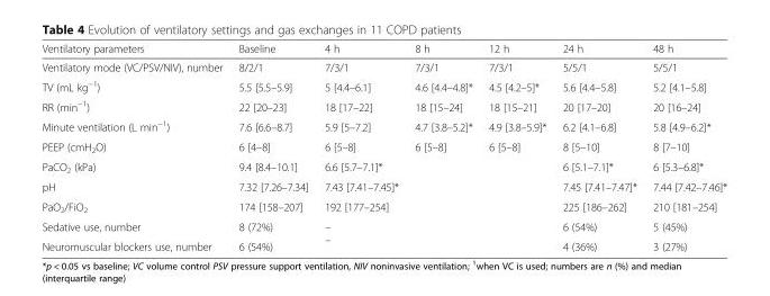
<table><thead><tr><td>Ventilatory parameters</td><td>Baseline</td><td>4 h</td><td>8 h</td><td>12 h</td><td>24 h</td><td>48 h</td></tr></thead><tbody><tr><td>Ventilatory mode (VC/PSV/NIV), number</td><td>8/2/1</td><td>7/3/1</td><td>7/3/1</td><td>7/3/1</td><td>5/5/1</td><td>5/5/1</td></tr><tr><td>TV (mL kg<sup>−1</sup>)</td><td>5.5 [5.5–5.9]</td><td>5 [4.4–6.1]</td><td>4.6 [4.4–4.8]*</td><td>4.5 [4.2–5]*</td><td>5.6 [4.4–5.8]</td><td>5.2 [4.1–5.8]</td></tr><tr><td>RR (min<sup>−1</sup>)</td><td>22 [20–23]</td><td>18 [17–22]</td><td>18 [15–24]</td><td>18 [15–21]</td><td>20 [17–20]</td><td>20 [16–24]</td></tr><tr><td>Minute ventilation (L min<sup>−1</sup>)</td><td>7.6 [6.6–8.7]</td><td>5.9 [5–7.2]</td><td>4.7 [3.8–5.2]*</td><td>4.9 [3.8–5.9]*</td><td>6.2 [4.1–6.8]</td><td>5.8 [4.9–6.2]*</td></tr><tr><td>PEEP (cmH<sub>2</sub>O)</td><td>6 [4–8]</td><td>6 [5–8]</td><td rowspan="6">6 [5–8]</td><td rowspan="6">6 [5–8]</td><td>8 [5–10]</td><td>8 [7–10]</td></tr><tr><td>PaCO<sub>2</sub> (kPa)</td><td>9.4 [8.4–10.1]</td><td>6.6 [5.7–7.1]*</td><td>6 [5.1–7.1]*</td><td>6 [5.3–6.8]*</td></tr><tr><td>pH</td><td>7.32 [7.26–7.34]</td><td>7.43 [7.41–7.45]*</td><td>7.45 [7.41–7.47]*</td><td>7.44 [7.42–7.46]*</td></tr><tr><td>PaO<sub>2</sub>/FiO<sub>2</sub></td><td>174 [158–207]</td><td>192 [177–254]</td><td>225 [186–262]</td><td>210 [181–254]</td></tr><tr><td>Sedative use, number</td><td>8 (72%)</td><td rowspan="2">– –</td><td>6 (54%)</td><td>5 (45%)</td></tr><tr><td>Neuromuscular blockers use, number</td><td>6 (54%)</td><td>4 (36%)</td><td>3 (27%)</td></tr></tbody></table>